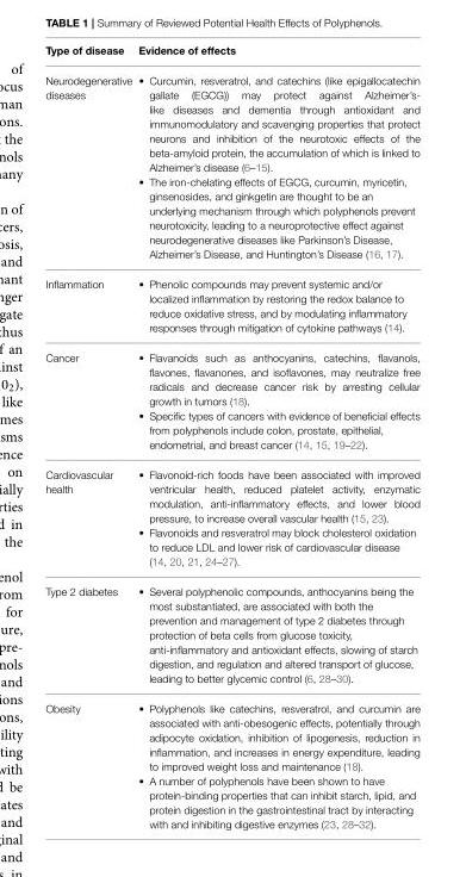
<table><thead><tr><td>Type of disease</td><td>Evidence of effects</td></tr></thead><tbody><tr><td>Neurodegenerative diseases</td><td>• Curcumin, resveratrol, and catechins (like epigallocatechin gallate (EGCG)) may protect against Alzheimer’s- like diseases and dementia through antioxidant and immunomodulatory and scavenging properties that protect neurons and inhibition of the neurotoxic effects of the beta-amyloid protein, the accumulation of which is linked to Alzheimer’s disease (6–15). • The iron-chelating effects of EGCG, curcumin, myricetin, ginsenosides, and ginkgetin are thought to be an underlying mechanism through which polyphenols prevent neurotoxicity, leading to a neuroprotective effect against neurodegenerative diseases like Parkinson’s Disease, Alzheimer’s Disease, and Huntington’s Disease (16, 17).</td></tr><tr><td>Inflammation</td><td>• Phenolic compounds may prevent systemic and/or localized inflammation by restoring the redox balance to reduce oxidative stress, and by modulating inflammatory responses through mitigation of cytokine pathways (14).</td></tr><tr><td>Cancer</td><td>• Flavanoids such as anthocyanins, catechins, flavanols, flavones, flavanones, and isoflavones, may neutralize free radicals and decrease cancer risk by arresting cellular growth in tumors (18). • Specific types of cancers with evidence of beneficial effects from polyphenols include colon, prostate, epithelial, endometrial, and breast cancer (14, 15, 19–22).</td></tr><tr><td>Cardiovascular health</td><td>• Flavonoid-rich foods have been associated with improved ventricular health, reduced platelet activity, enzymatic modulation, anti-inflammatory effects, and lower blood pressure, to increase overall vascular health (15, 23). • Flavonoids and resveratrol may block cholesterol oxidation to reduce LDL and lower risk of cardiovascular disease (14, 20, 21, 24–27).</td></tr><tr><td>Type 2 diabetes</td><td>• Several polyphenolic compounds, anthocyanins being the most substantiated, are associated with both the prevention and management of type 2 diabetes through protection of beta cells from glucose toxicity, anti-inflammatory and antioxidant effects, slowing of starch digestion, and regulation and altered transport of glucose, leading to better glycemic control (6, 28–30).</td></tr><tr><td>Obesity</td><td>• Polyphenols like catechins, resveratrol, and curcumin are associated with anti-obesogenic effects, potentially through adipocyte oxidation, inhibition of lipogenesis, reduction in inflammation, and increases in energy expenditure, leading to improved weight loss and maintenance (18). • A number of polyphenols have been shown to have protein-binding properties that can inhibit starch, lipid, and protein digestion in the gastrointestinal tract by interacting with and inhibiting digestive enzymes (23, 28–32).</td></tr></tbody></table>